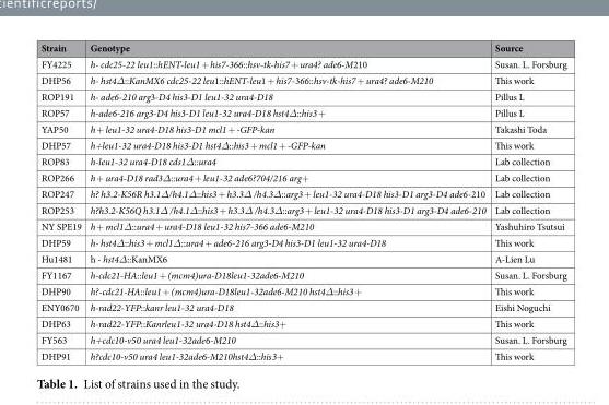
<table><thead><tr><td>Strain</td><td>Genotype</td><td>Source</td></tr></thead><tbody><tr><td>FY4225</td><td>h- cdc25-22 leu1::hENT-leu1 + his7-366::hsv-tk-his7 + ura4? ade6-M210</td><td>Susan. L. Forsburg</td></tr><tr><td>DHP56</td><td>h- hst4Δ::KanMX6 cdc25-22 leu1::hENT-leu1 + his7-366::hsv-tk-his7 + ura4? ade6-M210</td><td>This work</td></tr><tr><td>ROP191</td><td>h- ade6-210 arg3-D4 his3-D1 leu1-32 ura4-D18</td><td>Pillus L</td></tr><tr><td>ROP57</td><td>h-ade6-216 arg3-D4 his3-D1 leu1-32 ura4-D18 hst4Δ::his3 +</td><td>Pillus L</td></tr><tr><td>YAP50</td><td>h + leu1-32 ura4-D18 his3-D1 mcl1 + -GFP-kan</td><td>Takashi Toda</td></tr><tr><td>DHP57</td><td>h+leu1-32 ura4-D18 his3-D1 hst4Δ::his3 + mcl1 + -GFP-kan</td><td>This work</td></tr><tr><td>ROP83</td><td>h-leu1-32 ura4-D18 cds1Δ::ura4</td><td>Lab collection</td></tr><tr><td>ROP266</td><td>h + ura4-D18 rad3Δ::ura4 + leu1-32 ade6?704/216 arg+</td><td>Lab collection</td></tr><tr><td>ROP247</td><td>h? h3.2-K56R h3.1Δ/h4.1Δ::his3 + h3.3Δ /h4.3Δ::arg3 + leu1-32 ura4-D18 his3-D1 arg3-D4 ade6-210</td><td>Lab collection</td></tr><tr><td>ROP253</td><td>h?h3.2-K56Q h3.1Δ /h4.1Δ::his3 + h3.3Δ /h4.3Δ::arg3 + leu1-32 ura4-D18 his3-D1 arg3-D4 ade6-210</td><td>Lab collection</td></tr><tr><td>NY SPE19</td><td>h + mcl1Δ::ura4 + ura4-D18 leu1-32 his7-366 ade6-M210</td><td>Yashuhiro Tsutsui</td></tr><tr><td>DHP59</td><td>h- hst4Δ::his3 + mcl1Δ::ura4 + ade6-216 arg3-D4 his3-D1 leu1-32 ura4-D18</td><td>This work</td></tr><tr><td>Hu1481</td><td>h - hst4Δ::KanMX6</td><td>A-Lien Lu</td></tr><tr><td>FY1167</td><td>h-cdc21-HA::leu1 + (mcm4)ura-D18leu1-32ade6-M210</td><td>Susan. L. Forsburg</td></tr><tr><td>DHP90</td><td>h?-cdc21-HA::leu1 + (mcm4)ura-D18leu1-32ade6-M210 hst4Δ::his3 +</td><td>This work</td></tr><tr><td>ENY0670</td><td>h-rad22-YFP::kanr leu1-32 ura4-D18</td><td>Eishi Noguchi</td></tr><tr><td>DHP63</td><td>h-rad22-YFP::Kanrleu1-32 ura4-D18 hst4Δ::his3+</td><td>This work</td></tr><tr><td>FY563</td><td>h+cdc10-v50 ura4 leu1-32ade6-M210</td><td>Susan. L. Forsburg</td></tr><tr><td>DHP91</td><td>h?cdc10-v50 ura4 leu1-32ade6-M210hst4Δ::his3+</td><td>This work</td></tr></tbody></table>